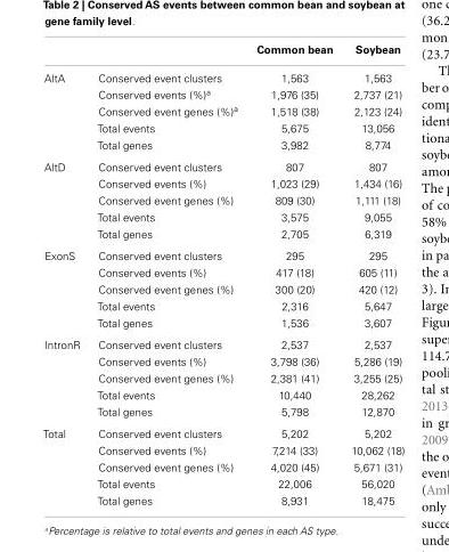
<table><thead><tr><td></td><td></td><td>Common bean</td><td>Soybean</td></tr></thead><tbody><tr><td rowspan="5">AltA</td><td>Conserved event clusters</td><td>1,563</td><td>1,563</td></tr><tr><td>Conserved events (%)<sup>a</sup></td><td>1,976 (35)</td><td>2,737 (21)</td></tr><tr><td>Conserved event genes (%)<sup>a</sup></td><td>1,518 (38)</td><td>2,123 (24)</td></tr><tr><td>Total events</td><td>5,675</td><td>13,056</td></tr><tr><td>Total genes</td><td>3,982</td><td>8,774</td></tr><tr><td rowspan="5">AltD</td><td>Conserved event clusters</td><td>807</td><td>807</td></tr><tr><td>Conserved events (%)</td><td>1,023 (29)</td><td>1,434 (16)</td></tr><tr><td>Conserved event genes (%)</td><td>809 (30)</td><td>1,111 (18)</td></tr><tr><td>Total events</td><td>3,575</td><td>9,055</td></tr><tr><td>Total genes</td><td>2,705</td><td>6,319</td></tr><tr><td rowspan="5">ExonS</td><td>Conserved event clusters</td><td>295</td><td>295</td></tr><tr><td>Conserved events (%)</td><td>417 (18)</td><td>605 (11)</td></tr><tr><td>Conserved event genes (%)</td><td>300 (20)</td><td>420 (12)</td></tr><tr><td>Total events</td><td>2,316</td><td>5,647</td></tr><tr><td>Total genes</td><td>1,536</td><td>3,607</td></tr><tr><td rowspan="5">IntronR</td><td>Conserved event clusters</td><td>2,537</td><td>2,537</td></tr><tr><td>Conserved events (%)</td><td>3,798 (36)</td><td>5,286 (19)</td></tr><tr><td>Conserved event genes (%)</td><td>2,381 (41)</td><td>3,255 (25)</td></tr><tr><td>Total events</td><td>10,440</td><td>28,262</td></tr><tr><td>Total genes</td><td>5,798</td><td>12,870</td></tr><tr><td rowspan="5">Total</td><td>Conserved event clusters</td><td>5,202</td><td>5,202</td></tr><tr><td>Conserved events (%)</td><td>7,214 (33)</td><td>10,062 (18)</td></tr><tr><td>Conserved event genes (%)</td><td>4,020 (45)</td><td>5,671 (31)</td></tr><tr><td>Total events</td><td>22,006</td><td>56,020</td></tr><tr><td>Total genes</td><td>8,931</td><td>18,475</td></tr></tbody></table>